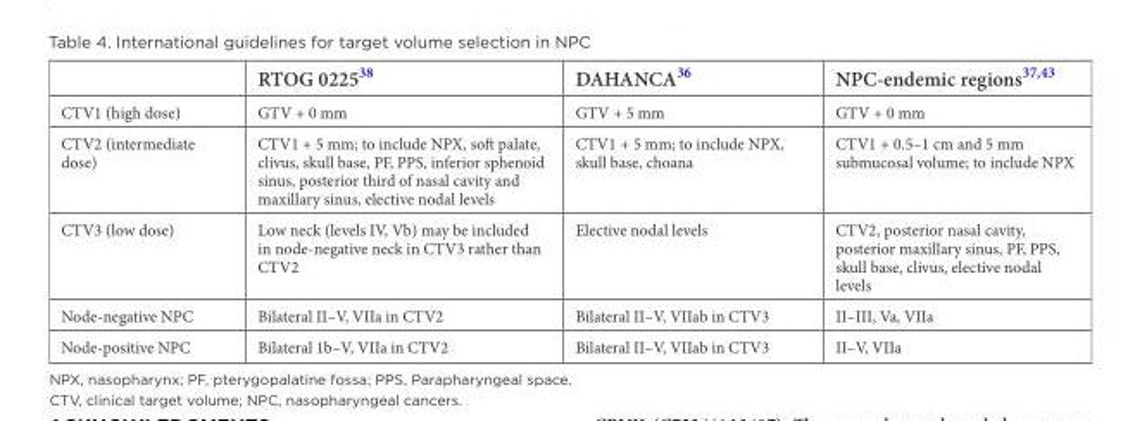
<table><thead><tr><td></td><td>RTOG 0225<sup>38</sup></td><td>DAHANCA<sup>36</sup></td><td>NPC-endemic regions<sup>37,43</sup></td></tr></thead><tbody><tr><td>CTV1 (high dose)</td><td>GTV + 0 mm</td><td>GTV + 5 mm</td><td>GTV + 0 mm</td></tr><tr><td>CTV2 (intermediate dose)</td><td>CTV1 + 5 mm; to include NPX, soft palate, clivus, skull base, PF, PPS, inferior sphenoid sinus, posterior third of nasal cavity and maxillary sinus, elective nodal levels</td><td>CTV1 + 5 mm; to include NPX, skull base, choana</td><td>CTV1 + 0.5–1 cm and 5 mm submucosal volume; to include NPX</td></tr><tr><td>CTV3 (low dose)</td><td>Low neck (levels IV, Vb) may be included in node-negative neck in CTV3 rather than CTV2</td><td>Elective nodal levels</td><td>CTV2, posterior nasal cavity, posterior maxillary sinus, PF, PPS, skull base, clivus, elective nodal levels</td></tr><tr><td>Node-negative NPC</td><td>Bilateral II–V, VIIa in CTV2</td><td>Bilateral II–V, VIIab in CTV3</td><td>II–III, Va, VIIa</td></tr><tr><td>Node-positive NPC</td><td>Bilateral 1b–V, VIIa in CTV2</td><td>Bilateral II–V, VIIab in CTV3</td><td>II–V, VIIa</td></tr></tbody></table>